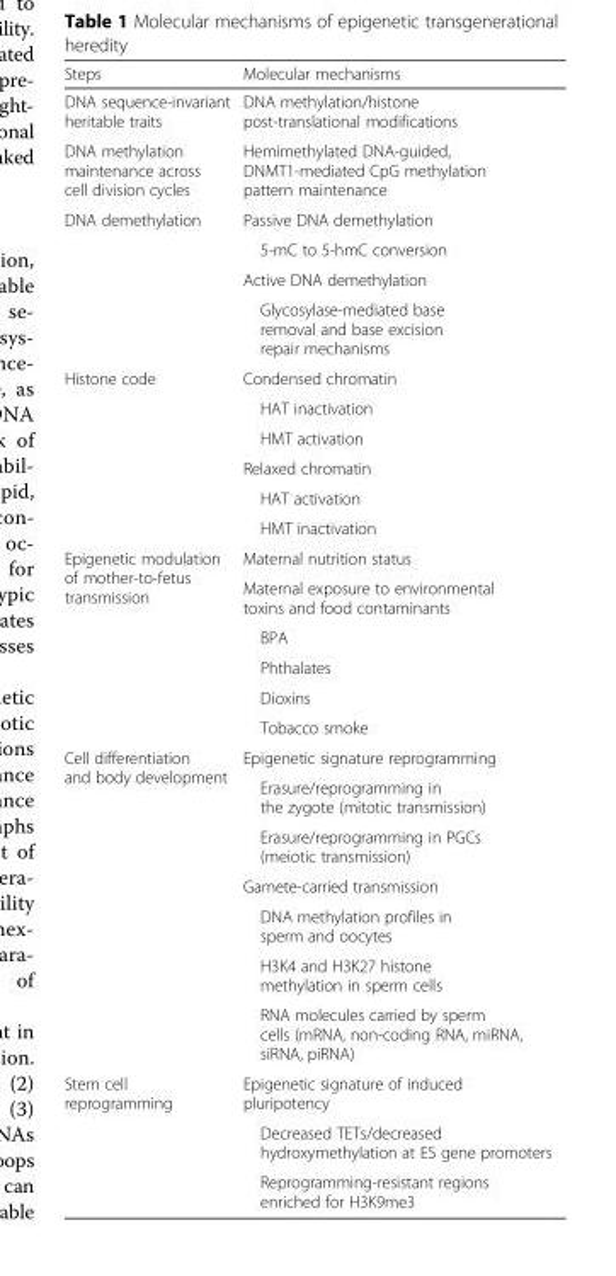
<table><thead><tr><td>Steps</td><td>Molecular mechanisms</td></tr></thead><tbody><tr><td>DNA sequence-invariant heritable traits</td><td>DNA methylation/histone post-translational modifications</td></tr><tr><td>DNA methylation maintenance across cell division cycles</td><td>Hemimethylated DNA-guided, DNMT1-mediated CpG methylation pattern maintenance</td></tr><tr><td rowspan="4">DNA demethylation</td><td>Passive DNA demethylation</td></tr><tr><td>5-mC to 5-hmC conversion</td></tr><tr><td>Active DNA demethylation</td></tr><tr><td>Glycosylase-mediated base removal and base excision repair mechanisms</td></tr><tr><td rowspan="6">Histone code</td><td>Condensed chromatin</td></tr><tr><td>HAT inactivation</td></tr><tr><td>HMT activation</td></tr><tr><td>Relaxed chromatin</td></tr><tr><td>HAT activation</td></tr><tr><td>HMT inactivation</td></tr><tr><td rowspan="6">Epigenetic modulation of mother-to-fetus transmission</td><td>Maternal nutrition status</td></tr><tr><td>Maternal exposure to environmental toxins and food contaminants</td></tr><tr><td>BPA</td></tr><tr><td>Phthalates</td></tr><tr><td>Dioxins</td></tr><tr><td>Tobacco smoke</td></tr><tr><td rowspan="7">Cell differentiation and body development</td><td>Epigenetic signature reprogramming</td></tr><tr><td>Erasure/reprogramming in the zygote (mitotic transmission)</td></tr><tr><td>Erasure/reprogramming in PGCs (meiotic transmission)</td></tr><tr><td>Gamete-carried transmission</td></tr><tr><td>DNA methylation profiles in sperm and oocytes</td></tr><tr><td>H3K4 and H3K27 histone methylation in sperm cells</td></tr><tr><td>RNA molecules carried by sperm cells (mRNA, non-coding RNA, miRNA, siRNA, piRNA)</td></tr><tr><td rowspan="3">Stem cell reprogramming</td><td>Epigenetic signature of induced pluripotency</td></tr><tr><td>Decreased TETs/decreased hydroxymethylation at ES gene promoters</td></tr><tr><td>Reprogramming-resistant regions enriched for H3K9me3</td></tr></tbody></table>